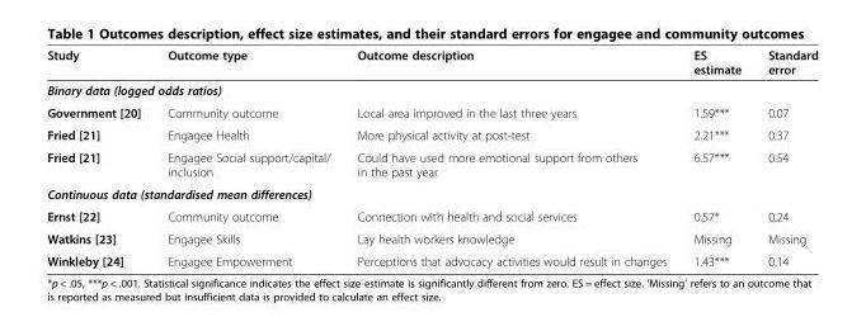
<table><thead><tr><td>Study</td><td>Outcome type</td><td>Outcome description</td><td>ES estimate</td><td>Standard error</td></tr></thead><tbody><tr><td colspan="5">Binary data (logged odds ratios)</td></tr><tr><td>Government [20]</td><td>Community outcome</td><td>Local area improved in the last three years</td><td>1.59***</td><td>0.07</td></tr><tr><td>Fried [21]</td><td>Engagee Health</td><td>More physical activity at post-test</td><td>2.21***</td><td>0.37</td></tr><tr><td>Fried [21]</td><td>Engagee Social support/capital/ inclusion</td><td>Could have used more emotional support from others in the past year</td><td>6.57***</td><td>0.54</td></tr><tr><td colspan="5">Continuous data (standardised mean differences)</td></tr><tr><td>Ernst [22]</td><td>Community outcome</td><td>Connection with health and social services</td><td>0.57*</td><td>0.24</td></tr><tr><td>Watkins [23]</td><td>Engagee Skills</td><td>Lay health workers knowledge</td><td>Missing</td><td>Missing</td></tr><tr><td>Winkleby [24]</td><td>Engagee Empowerment</td><td>Perceptions that advocacy activities would result in changes</td><td>1.43***</td><td>0.14</td></tr></tbody></table>